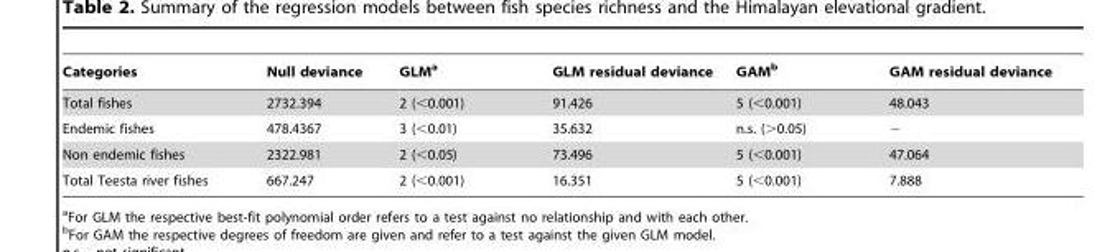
<table><thead><tr><td>Categories</td><td>Null deviance</td><td>GLM<sup>a</sup></td><td>GLM residual deviance</td><td>GAM<sup>b</sup></td><td>GAM residual deviance</td></tr></thead><tbody><tr><td>Total fishes</td><td>2732.394</td><td>2 (&lt;0.001)</td><td>91.426</td><td>5 (&lt;0.001)</td><td>48.043</td></tr><tr><td>Endemic fishes</td><td>478.4367</td><td>3 (&lt;0.01)</td><td>35.632</td><td>n.s. (&gt;0.05)</td><td>−</td></tr><tr><td>Non endemic fishes</td><td>2322.981</td><td>2 (&lt;0.05)</td><td>73.496</td><td>5 (&lt;0.001)</td><td>47.064</td></tr><tr><td>Total Teesta river fishes</td><td>667.247</td><td>2 (&lt;0.001)</td><td>16.351</td><td>5 (&lt;0.001)</td><td>7.888</td></tr></tbody></table>